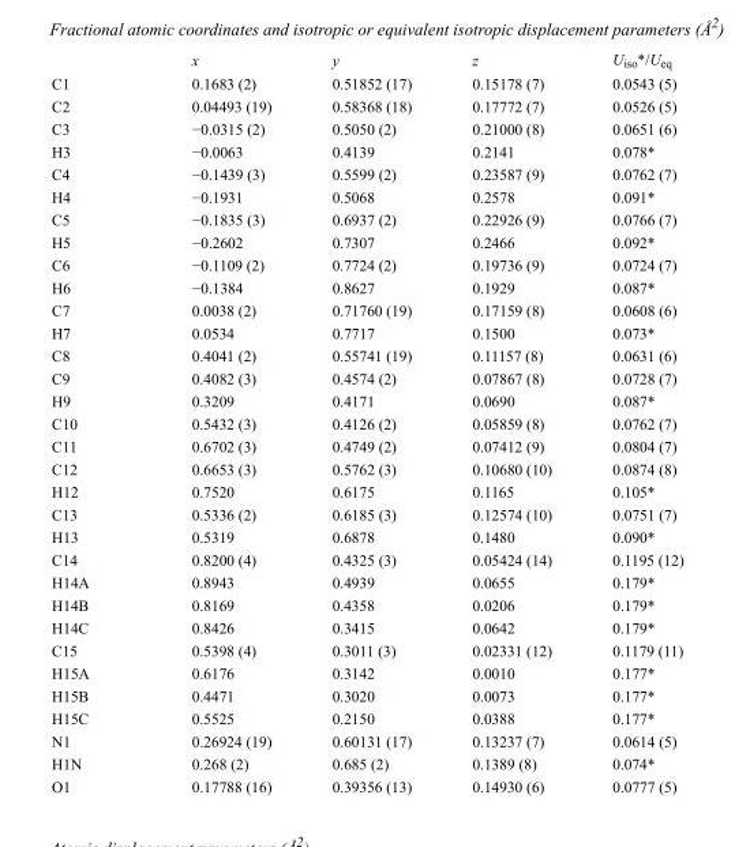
<table><thead><tr><td></td><td>x</td><td>y</td><td>z</td><td>U<sub>iso</sub>*/U<sub>eq</sub></td></tr></thead><tbody><tr><td>C1</td><td>0.1683 (2)</td><td>0.51852 (17)</td><td>0.15178 (7)</td><td>0.0543 (5)</td></tr><tr><td>C2</td><td>0.04493 (19)</td><td>0.58368 (18)</td><td>0.17772 (7)</td><td>0.0526 (5)</td></tr><tr><td>C3</td><td>−0.0315 (2)</td><td>0.5050 (2)</td><td>0.21000 (8)</td><td>0.0651 (6)</td></tr><tr><td>H3</td><td>−0.0063</td><td>0.4139</td><td>0.2141</td><td>0.078*</td></tr><tr><td>C4</td><td>−0.1439 (3)</td><td>0.5599 (2)</td><td>0.23587 (9)</td><td>0.0762 (7)</td></tr><tr><td>H4</td><td>−0.1931</td><td>0.5068</td><td>0.2578</td><td>0.091*</td></tr><tr><td>C5</td><td>−0.1835 (3)</td><td>0.6937 (2)</td><td>0.22926 (9)</td><td>0.0766 (7)</td></tr><tr><td>H5</td><td>−0.2602</td><td>0.7307</td><td>0.2466</td><td>0.092*</td></tr><tr><td>C6</td><td>−0.1109 (2)</td><td>0.7724 (2)</td><td>0.19736 (9)</td><td>0.0724 (7)</td></tr><tr><td>H6</td><td>−0.1384</td><td>0.8627</td><td>0.1929</td><td>0.087*</td></tr><tr><td>C7</td><td>0.0038 (2)</td><td>0.71760 (19)</td><td>0.17159 (8)</td><td>0.0608 (6)</td></tr><tr><td>H7</td><td>0.0534</td><td>0.7717</td><td>0.1500</td><td>0.073*</td></tr><tr><td>C8</td><td>0.4041 (2)</td><td>0.55741 (19)</td><td>0.11157 (8)</td><td>0.0631 (6)</td></tr><tr><td>C9</td><td>0.4082 (3)</td><td>0.4574 (2)</td><td>0.07867 (8)</td><td>0.0728 (7)</td></tr><tr><td>H9</td><td>0.3209</td><td>0.4171</td><td>0.0690</td><td>0.087*</td></tr><tr><td>C10</td><td>0.5432 (3)</td><td>0.4126 (2)</td><td>0.05859 (8)</td><td>0.0762 (7)</td></tr><tr><td>C11</td><td>0.6702 (3)</td><td>0.4749 (2)</td><td>0.07412 (9)</td><td>0.0804 (7)</td></tr><tr><td>C12</td><td>0.6653 (3)</td><td>0.5762 (3)</td><td>0.10680 (10)</td><td>0.0874 (8)</td></tr><tr><td>H12</td><td>0.7520</td><td>0.6175</td><td>0.1165</td><td>0.105*</td></tr><tr><td>C13</td><td>0.5336 (2)</td><td>0.6185 (3)</td><td>0.12574 (10)</td><td>0.0751 (7)</td></tr><tr><td>H13</td><td>0.5319</td><td>0.6878</td><td>0.1480</td><td>0.090*</td></tr><tr><td>C14</td><td>0.8200 (4)</td><td>0.4325 (3)</td><td>0.05424 (14)</td><td>0.1195 (12)</td></tr><tr><td>H14A</td><td>0.8943</td><td>0.4939</td><td>0.0655</td><td>0.179*</td></tr><tr><td>H14B</td><td>0.8169</td><td>0.4358</td><td>0.0206</td><td>0.179*</td></tr><tr><td>H14C</td><td>0.8426</td><td>0.3415</td><td>0.0642</td><td>0.179*</td></tr><tr><td>C15</td><td>0.5398 (4)</td><td>0.3011 (3)</td><td>0.02331 (12)</td><td>0.1179 (11)</td></tr><tr><td>H15A</td><td>0.6176</td><td>0.3142</td><td>0.0010</td><td>0.177*</td></tr><tr><td>H15B</td><td>0.4471</td><td>0.3020</td><td>0.0073</td><td>0.177*</td></tr><tr><td>H15C</td><td>0.5525</td><td>0.2150</td><td>0.0388</td><td>0.177*</td></tr><tr><td>N1</td><td>0.26924 (19)</td><td>0.60131 (17)</td><td>0.13237 (7)</td><td>0.0614 (5)</td></tr><tr><td>H1N</td><td>0.268 (2)</td><td>0.685 (2)</td><td>0.1389 (8)</td><td>0.074*</td></tr><tr><td>O1</td><td>0.17788 (16)</td><td>0.39356 (13)</td><td>0.14930 (6)</td><td>0.0777 (5)</td></tr></tbody></table>